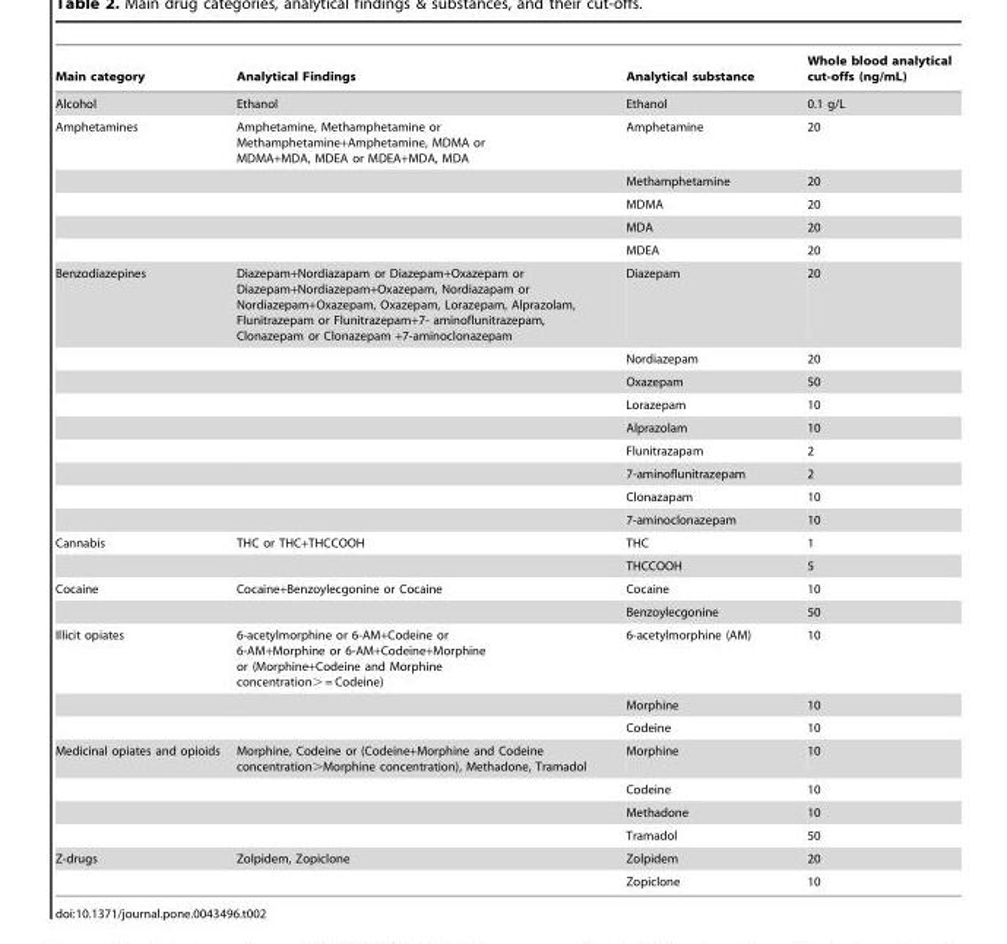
<table><thead><tr><td>Main category</td><td>Analytical Findings</td><td>Analytical substance</td><td>Whole blood analytical cut-offs (ng/mL)</td></tr></thead><tbody><tr><td>Alcohol</td><td>Ethanol</td><td>Ethanol</td><td>0.1 g/L</td></tr><tr><td rowspan="5">Amphetamines</td><td>Amphetamine, Methamphetamine or Methamphetamine+Amphetamine, MDMA or MDMA+MDA, MDEA or MDEA+MDA, MDA</td><td>Amphetamine</td><td>20</td></tr><tr><td></td><td>Methamphetamine</td><td>20</td></tr><tr><td></td><td>MDMA</td><td>20</td></tr><tr><td></td><td>MDA</td><td>20</td></tr><tr><td></td><td>MDEA</td><td>20</td></tr><tr><td rowspan="9">Benzodiazepines</td><td>Diazepam+Nordiazapam or Diazepam+Oxazepam or Diazepam+Nordiazepam+Oxazepam, Nordiazapam or Nordiazepam+Oxazepam, Oxazepam, Lorazepam, Alprazolam, Flunitrazepam or Flunitrazepam+7- aminoflunitrazepam, Clonazepam or Clonazepam +7-aminoclonazepam</td><td>Diazepam</td><td>20</td></tr><tr><td></td><td>Nordiazepam</td><td>20</td></tr><tr><td></td><td>Oxazepam</td><td>50</td></tr><tr><td></td><td>Lorazepam</td><td>10</td></tr><tr><td></td><td>Alprazolam</td><td>10</td></tr><tr><td></td><td>Flunitrazapam</td><td>2</td></tr><tr><td></td><td>7-aminoflunitrazepam</td><td>2</td></tr><tr><td></td><td>Clonazapam</td><td>10</td></tr><tr><td></td><td>7-aminoclonazepam</td><td>10</td></tr><tr><td rowspan="2">Cannabis</td><td>THC or THC+THCCOOH</td><td>THC</td><td>1</td></tr><tr><td></td><td>THCCOOH</td><td>5</td></tr><tr><td rowspan="2">Cocaine</td><td>Cocaine+Benzoylecgonine or Cocaine</td><td>Cocaine</td><td>10</td></tr><tr><td></td><td>Benzoylecgonine</td><td>50</td></tr><tr><td rowspan="3">Illicit opiates</td><td>6-acetylmorphine or 6-AM+Codeine or 6-AM+Morphine or 6-AM+Codeine+Morphine or (Morphine+Codeine and Morphine concentration&gt; = Codeine)</td><td>6-acetylmorphine (AM)</td><td>10</td></tr><tr><td></td><td>Morphine</td><td>10</td></tr><tr><td></td><td>Codeine</td><td>10</td></tr><tr><td rowspan="4">Medicinal opiates and opioids</td><td>Morphine, Codeine or (Codeine+Morphine and Codeine concentration&gt;Morphine concentration), Methadone, Tramadol</td><td>Morphine</td><td>10</td></tr><tr><td></td><td>Codeine</td><td>10</td></tr><tr><td></td><td>Methadone</td><td>10</td></tr><tr><td></td><td>Tramadol</td><td>50</td></tr><tr><td rowspan="2">Z-drugs</td><td>Zolpidem, Zopiclone</td><td>Zolpidem</td><td>20</td></tr><tr><td></td><td>Zopiclone</td><td>10</td></tr></tbody></table>